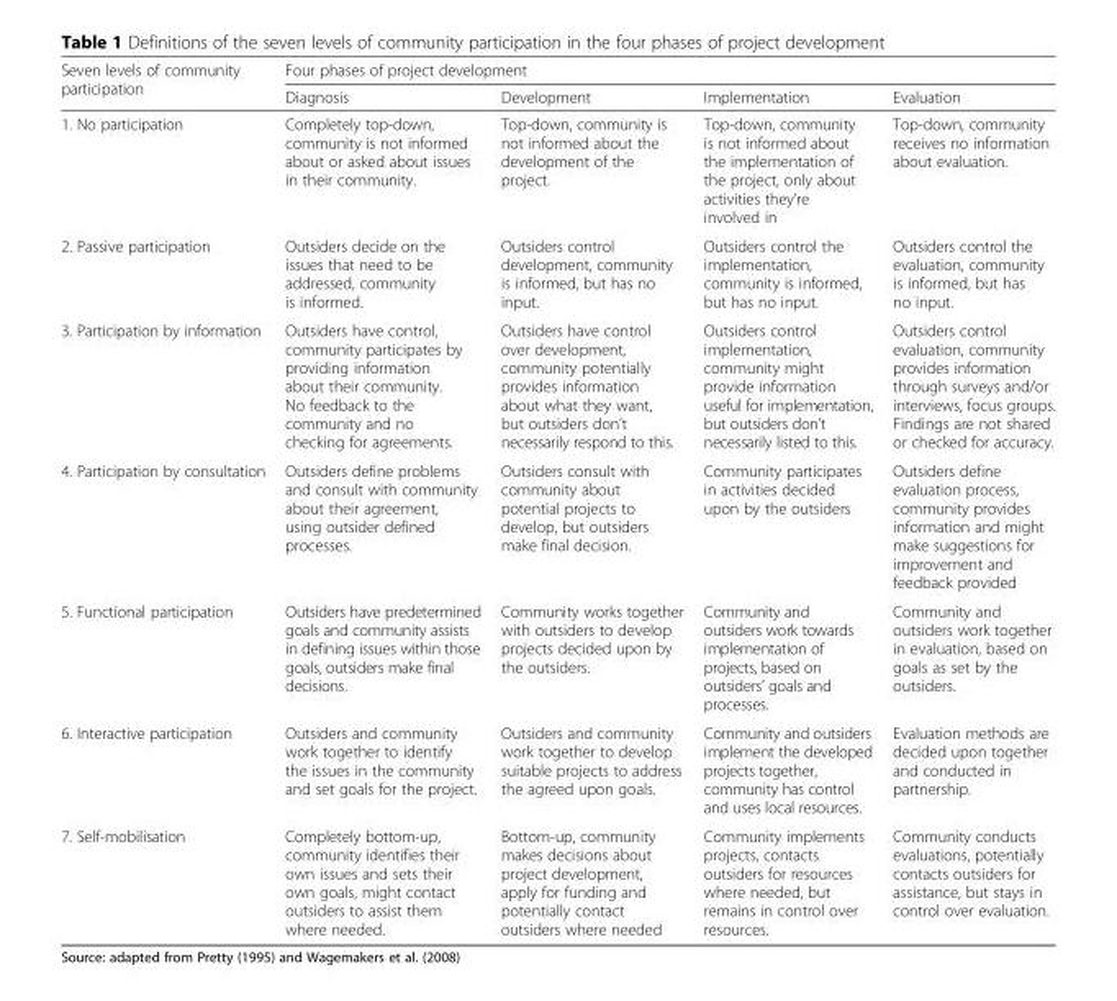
<table><thead><tr><td rowspan="2">Seven levels of community participation</td><td colspan="4">Four phases of project development</td></tr><tr><td>Diagnosis</td><td>Development</td><td>Implementation</td><td>Evaluation</td></tr></thead><tbody><tr><td>1. No participation</td><td>Completely top-down, community is not informed about or asked about issues in their community.</td><td>Top-down, community is not informed about the development of the project.</td><td>Top-down, community is not informed about the implementation of the project, only about activities they’re involved in</td><td>Top-down, community receives no information about evaluation.</td></tr><tr><td>2. Passive participation</td><td>Outsiders decide on the issues that need to be addressed, community is informed.</td><td>Outsiders control development, community is informed, but has no input.</td><td>Outsiders control the implementation, community is informed, but has no input.</td><td>Outsiders control the evaluation, community is informed, but has no input.</td></tr><tr><td>3. Participation by information</td><td>Outsiders have control, community participates by providing information about their community. No feedback to the community and no checking for agreements.</td><td>Outsiders have control over development, community potentially provides information about what they want, but outsiders don’t necessarily respond to this.</td><td>Outsiders control implementation, community might provide information useful for implementation, but outsiders don’t necessarily listed to this.</td><td>Outsiders control evaluation, community provides information through surveys and/or interviews, focus groups. Findings are not shared or checked for accuracy.</td></tr><tr><td>4. Participation by consultation</td><td>Outsiders define problems and consult with community about their agreement, using outsider defined processes.</td><td>Outsiders consult with community about potential projects to develop, but outsiders make final decision.</td><td>Community participates in activities decided upon by the outsiders</td><td>Outsiders define evaluation process, community provides information and might make suggestions for improvement and feedback provided</td></tr><tr><td>5. Functional participation</td><td>Outsiders have predetermined goals and community assists in defining issues within those goals, outsiders make final decisions.</td><td>Community works together with outsiders to develop projects decided upon by the outsiders.</td><td>Community and outsiders work towards implementation of projects, based on outsiders’ goals and processes.</td><td>Community and outsiders work together in evaluation, based on goals as set by the outsiders.</td></tr><tr><td>6. Interactive participation</td><td>Outsiders and community work together to identify the issues in the community and set goals for the project.</td><td>Outsiders and community work together to develop suitable projects to address the agreed upon goals.</td><td>Community and outsiders implement the developed projects together, community has control and uses local resources.</td><td>Evaluation methods are decided upon together and conducted in partnership.</td></tr><tr><td>7. Self-mobilisation</td><td>Completely bottom-up, community identifies their own issues and sets their own goals, might contact outsiders to assist them where needed.</td><td>Bottom-up, community makes decisions about project development, apply for funding and potentially contact outsiders where needed</td><td>Community implements projects, contacts outsiders for resources where needed, but remains in control over resources.</td><td>Community conducts evaluations, potentially contacts outsiders for assistance, but stays in control over evaluation.</td></tr></tbody></table>